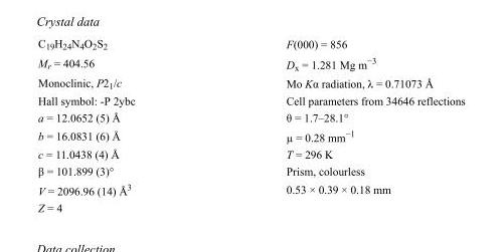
<table><tbody><tr><td>C<sub>19</sub>H<sub>24</sub>N<sub>4</sub>O<sub>2</sub>S<sub>2</sub></td><td>F(000) = 856</td></tr><tr><td>M<sub>r</sub> = 404.56</td><td>D<sub>x</sub> = 1.281 Mg m<sup>−3</sup></td></tr><tr><td>Monoclinic, P2<sub>1</sub>/c</td><td>Mo Kα radiation, λ = 0.71073 Å</td></tr><tr><td>Hall symbol: -P 2ybc</td><td>Cell parameters from 34646 reflections</td></tr><tr><td>a = 12.0652 (5) Å</td><td>θ = 1.7–28.1°</td></tr><tr><td>b = 16.0831 (6) Å</td><td>µ = 0.28 mm<sup>−1</sup></td></tr><tr><td>c = 11.0438 (4) Å</td><td>T = 296 K</td></tr><tr><td>β = 101.899 (3)°</td><td>Prism, colourless</td></tr><tr><td>V = 2096.96 (14) Å<sup>3</sup></td><td>0.53 × 0.39 × 0.18 mm</td></tr><tr><td>Z = 4</td><td></td></tr></tbody></table>